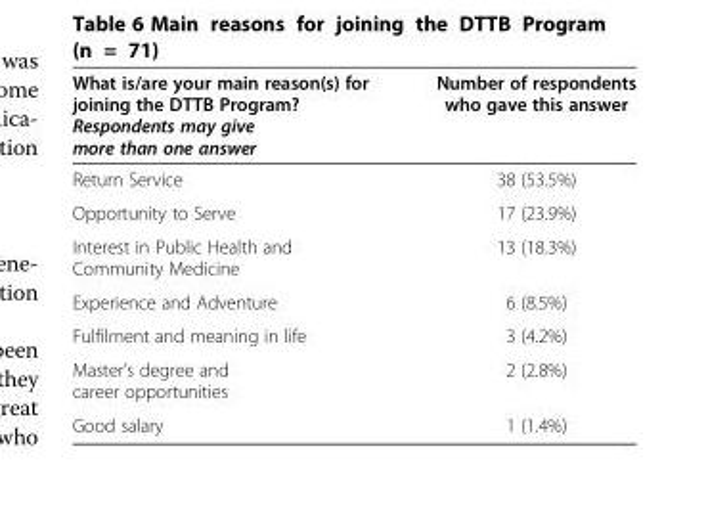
<table><thead><tr><td>What is/are your main reason(s) for joining the DTTB Program? Respondents may give more than one answer</td><td>Number of respondents who gave this answer</td></tr></thead><tbody><tr><td>Return Service</td><td>38 (53.5%)</td></tr><tr><td>Opportunity to Serve</td><td>17 (23.9%)</td></tr><tr><td>Interest in Public Health and Community Medicine</td><td>13 (18.3%)</td></tr><tr><td>Experience and Adventure</td><td>6 (8.5%)</td></tr><tr><td>Fulfilment and meaning in life</td><td>3 (4.2%)</td></tr><tr><td>Master’s degree and career opportunities</td><td>2 (2.8%)</td></tr><tr><td>Good salary</td><td>1 (1.4%)</td></tr></tbody></table>